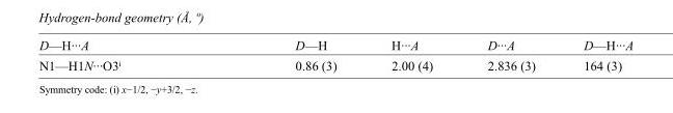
<table><tbody><tr><td>D—H···A</td><td>D—H</td><td>H···A</td><td>D···A</td><td>D—H···A</td></tr><tr><td>N1—H1N···O3<sup>i</sup></td><td>0.86 (3)</td><td>2.00 (4)</td><td>2.836 (3)</td><td>164 (3)</td></tr></tbody></table>